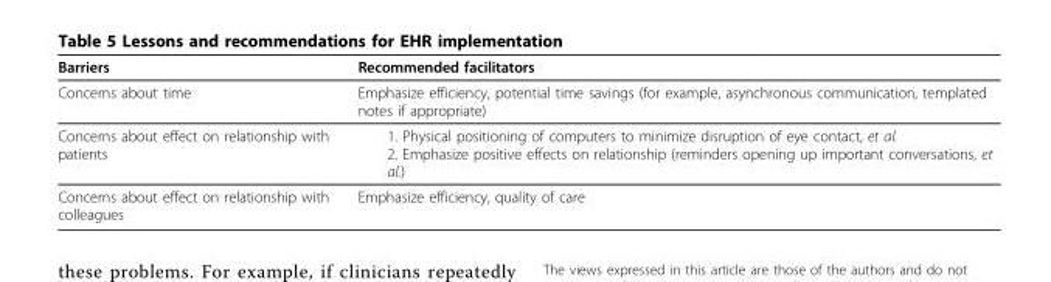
<table><thead><tr><td>Barriers</td><td>Recommended facilitators</td></tr></thead><tbody><tr><td>Concerns about time</td><td>Emphasize efficiency, potential time savings (for example, asynchronous communication, templated notes if appropriate)</td></tr><tr><td>Concerns about effect on relationship with patients</td><td>1. Physical positioning of computers to minimize disruption of eye contact, et al. 2. Emphasize positive effects on relationship (reminders opening up important conversations, et al.)</td></tr><tr><td>Concerns about effect on relationship with colleagues</td><td>Emphasize efficiency, quality of care</td></tr></tbody></table>